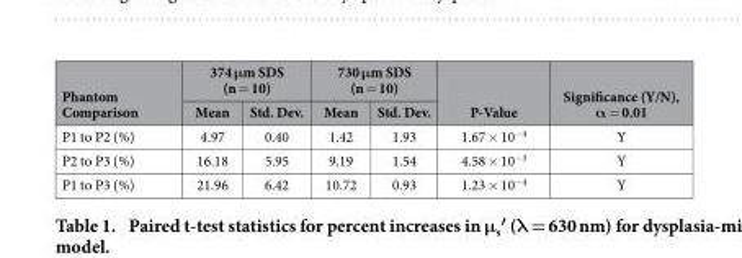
<table><thead><tr><td rowspan="2">Phantom Comparison</td><td colspan="2">374 μm SDS (n = 10)</td><td colspan="2">730 μm SDS (n = 10)</td><td rowspan="2">P-Value</td><td rowspan="2">Significance (Y/N), α = 0.01</td></tr><tr><td>Mean</td><td>Std. Dev.</td><td>Mean</td><td>Std. Dev.</td></tr></thead><tbody><tr><td>P1 to P2 (%)</td><td>4.97</td><td>0.40</td><td>1.42</td><td>1.93</td><td>1.67 × 10<sup>−4</sup></td><td>Y</td></tr><tr><td>P2 to P3 (%)</td><td>16.18</td><td>5.95</td><td>9.19</td><td>1.54</td><td>4.58 × 10<sup>−3</sup></td><td>Y</td></tr><tr><td>P1 to P3 (%)</td><td>21.96</td><td>6.42</td><td>10.72</td><td>0.93</td><td>1.23 × 10<sup>−4</sup></td><td>Y</td></tr></tbody></table>